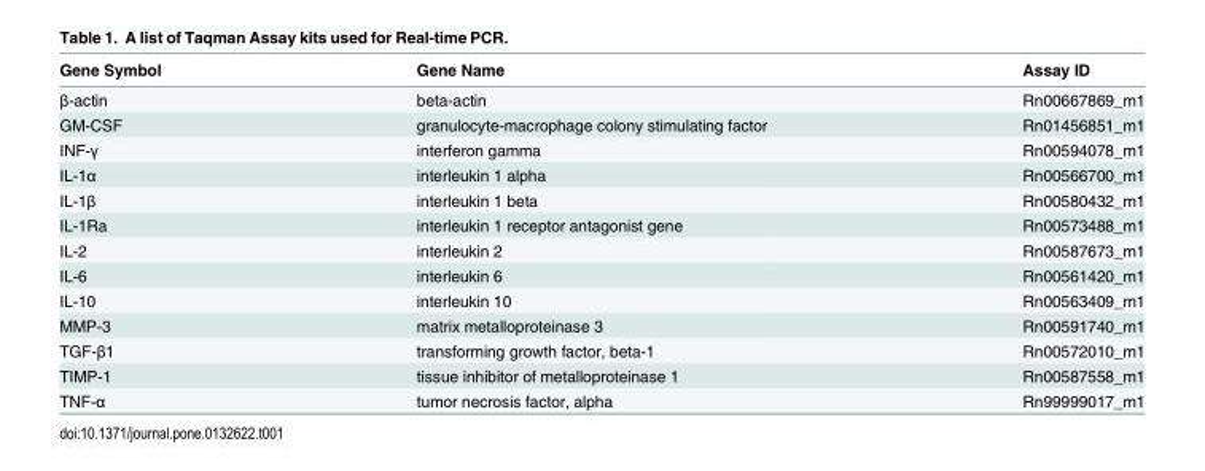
<table><thead><tr><td>Gene Symbol</td><td>Gene Name</td><td>Assay ID</td></tr></thead><tbody><tr><td>β-actin</td><td>beta-actin</td><td>Rn00667869_m1</td></tr><tr><td>GM-CSF</td><td>granulocyte-macrophage colony stimulating factor</td><td>Rn01456851_m1</td></tr><tr><td>INF-γ</td><td>interferon gamma</td><td>Rn00594078_m1</td></tr><tr><td>IL-1α</td><td>interleukin 1 alpha</td><td>Rn00566700_m1</td></tr><tr><td>IL-1β</td><td>interleukin 1 beta</td><td>Rn00580432_m1</td></tr><tr><td>IL-1Ra</td><td>interleukin 1 receptor antagonist gene</td><td>Rn00573488_m1</td></tr><tr><td>IL-2</td><td>interleukin 2</td><td>Rn00587673_m1</td></tr><tr><td>IL-6</td><td>interleukin 6</td><td>Rn00561420_m1</td></tr><tr><td>IL-10</td><td>interleukin 10</td><td>Rn00563409_m1</td></tr><tr><td>MMP-3</td><td>matrix metalloproteinase 3</td><td>Rn00591740_m1</td></tr><tr><td>TGF-β1</td><td>transforming growth factor, beta-1</td><td>Rn00572010_m1</td></tr><tr><td>TIMP-1</td><td>tissue inhibitor of metalloproteinase 1</td><td>Rn00587558_m1</td></tr><tr><td>TNF-α</td><td>tumor necrosis factor, alpha</td><td>Rn99999017_m1</td></tr></tbody></table>